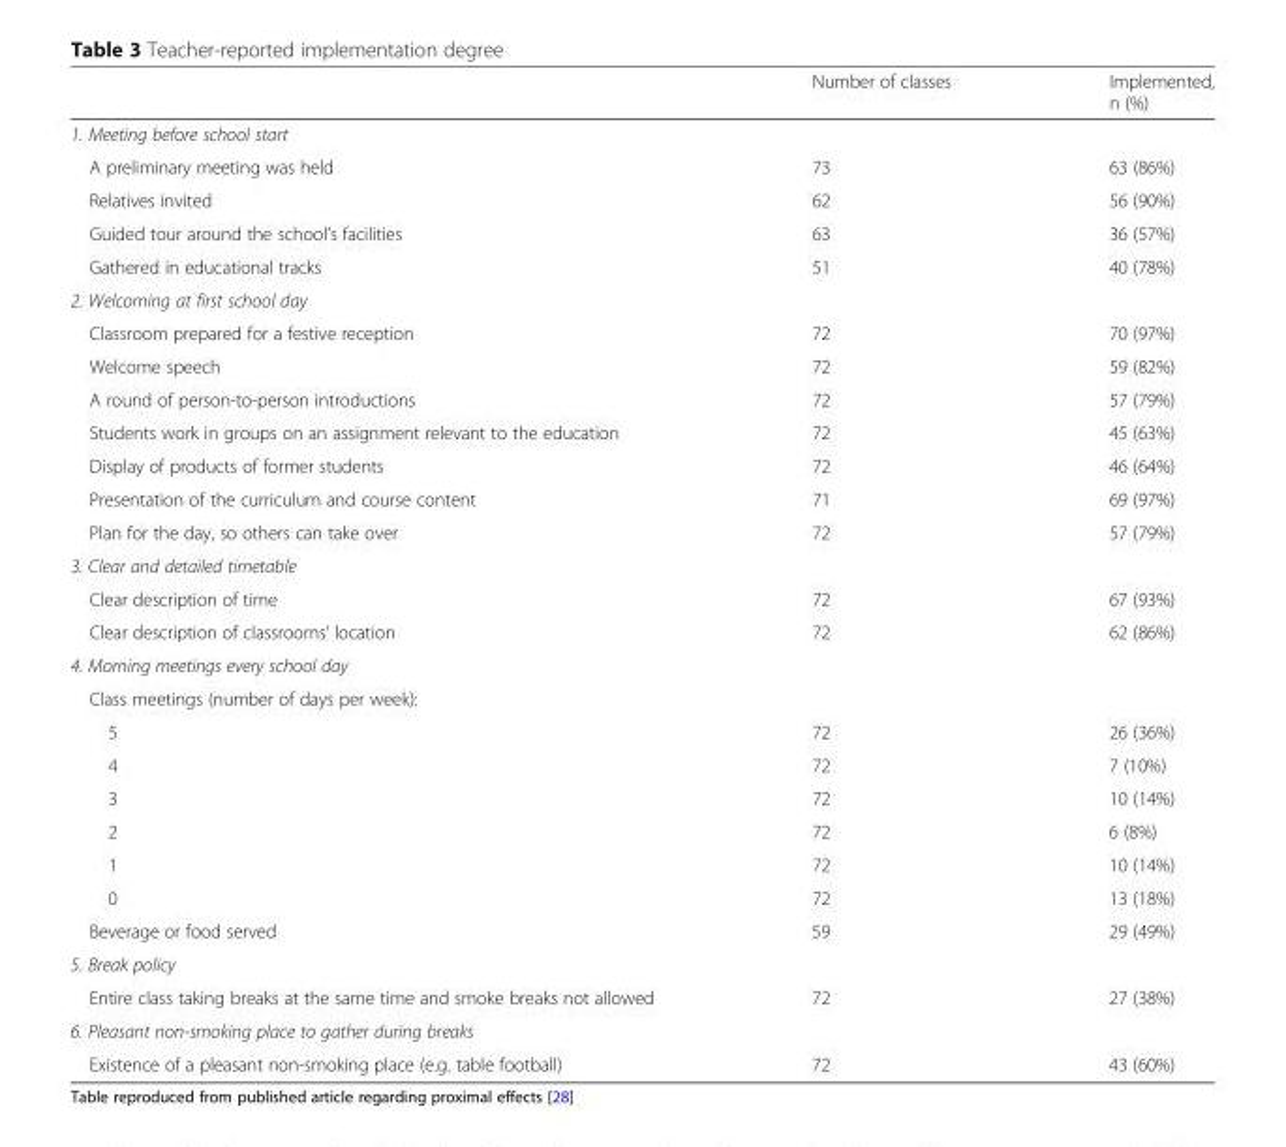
<table><thead><tr><td></td><td>Number of classes</td><td>Implemented, n (%)</td></tr></thead><tbody><tr><td colspan="3">1. Meeting before school start</td></tr><tr><td>A preliminary meeting was held</td><td>73</td><td>63 (86%)</td></tr><tr><td>Relatives invited</td><td>62</td><td>56 (90%)</td></tr><tr><td>Guided tour around the school’s facilities</td><td>63</td><td>36 (57%)</td></tr><tr><td>Gathered in educational tracks</td><td>51</td><td>40 (78%)</td></tr><tr><td colspan="3">2. Welcoming at first school day</td></tr><tr><td>Classroom prepared for a festive reception</td><td>72</td><td>70 (97%)</td></tr><tr><td>Welcome speech</td><td>72</td><td>59 (82%)</td></tr><tr><td>A round of person-to-person introductions</td><td>72</td><td>57 (79%)</td></tr><tr><td>Students work in groups on an assignment relevant to the education</td><td>72</td><td>45 (63%)</td></tr><tr><td>Display of products of former students</td><td>72</td><td>46 (64%)</td></tr><tr><td>Presentation of the curriculum and course content</td><td>71</td><td>69 (97%)</td></tr><tr><td>Plan for the day, so others can take over</td><td>72</td><td>57 (79%)</td></tr><tr><td colspan="3">3. Clear and detailed timetable</td></tr><tr><td>Clear description of time</td><td>72</td><td>67 (93%)</td></tr><tr><td>Clear description of classrooms’ location</td><td>72</td><td>62 (86%)</td></tr><tr><td colspan="3">4. Morning meetings every school day</td></tr><tr><td colspan="3">Class meetings (number of days per week):</td></tr><tr><td>5</td><td>72</td><td>26 (36%)</td></tr><tr><td>4</td><td>72</td><td>7 (10%)</td></tr><tr><td>3</td><td>72</td><td>10 (14%)</td></tr><tr><td>2</td><td>72</td><td>6 (8%)</td></tr><tr><td>1</td><td>72</td><td>10 (14%)</td></tr><tr><td>0</td><td>72</td><td>13 (18%)</td></tr><tr><td>Beverage or food served</td><td>59</td><td>29 (49%)</td></tr><tr><td colspan="3">5. Break policy</td></tr><tr><td>Entire class taking breaks at the same time and smoke breaks not allowed</td><td>72</td><td>27 (38%)</td></tr><tr><td colspan="3">6. Pleasant non-smoking place to gather during breaks</td></tr><tr><td>Existence of a pleasant non-smoking place (e.g. table football)</td><td>72</td><td>43 (60%)</td></tr></tbody></table>